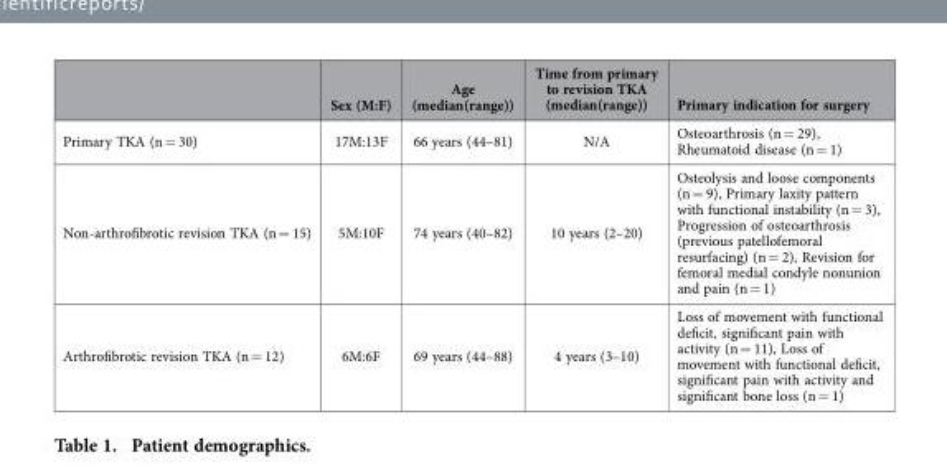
<table><thead><tr><td></td><td>Sex (M:F)</td><td>Age (median(range))</td><td>Time from primary to revision TKA (median(range))</td><td>Primary indication for surgery</td></tr></thead><tbody><tr><td>Primary TKA (n = 30)</td><td>17M:13F</td><td>66 years (44–81)</td><td>N/A</td><td>Osteoarthrosis (n = 29), Rheumatoid disease (n = 1)</td></tr><tr><td>Non-arthrofibrotic revision TKA (n = 15)</td><td>5M:10F</td><td>74 years (40–82)</td><td>10 years (2–20)</td><td>Osteolysis and loose components (n = 9), Primary laxity pattern with functional instability (n = 3), Progression of osteoarthrosis (previous patellofemoral resurfacing) (n = 2), Revision for femoral medial condyle nonunion and pain (n = 1)</td></tr><tr><td>Arthrofibrotic revision TKA (n = 12)</td><td>6M:6F</td><td>69 years (44–88)</td><td>4 years (3–10)</td><td>Loss of movement with functional deficit, significant pain with activity (n = 11), Loss of movement with functional deficit, significant pain with activity and significant bone loss (n = 1)</td></tr></tbody></table>